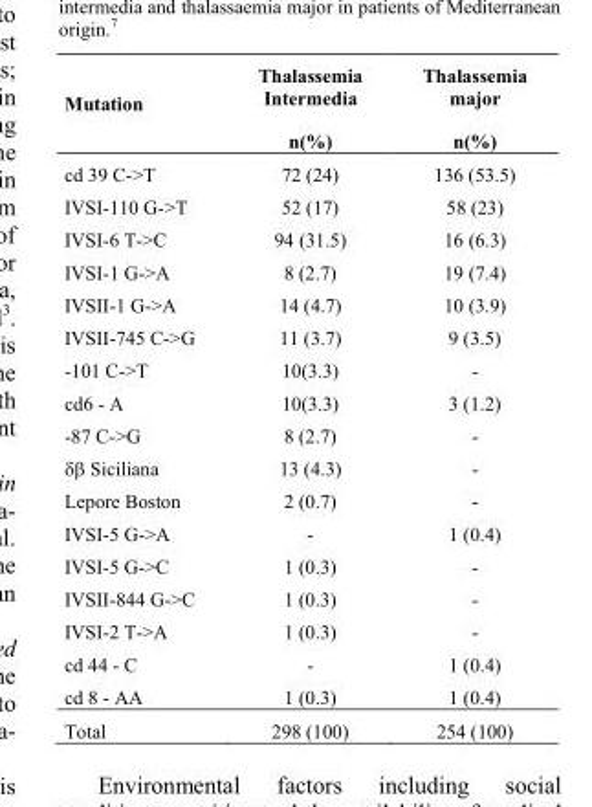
<table><thead><tr><td>Mutation</td><td>Thalassemia Intermedia n(%)</td><td>Thalassemia major n(%)</td></tr></thead><tbody><tr><td>cd 39 C-&gt;T</td><td>72 (24)</td><td>136 (53.5)</td></tr><tr><td>IVSI-110 G-&gt;T</td><td>52 (17)</td><td>58 (23)</td></tr><tr><td>IVSI-6 T-&gt;C</td><td>94 (31.5)</td><td>16 (6.3)</td></tr><tr><td>IVSI-1 G-&gt;A</td><td>8 (2.7)</td><td>19 (7.4)</td></tr><tr><td>IVSII-1 G-&gt;A</td><td>14 (4.7)</td><td>10 (3.9)</td></tr><tr><td>IVSII-745 C-&gt;G</td><td>11 (3.7)</td><td>9 (3.5)</td></tr><tr><td>-101 C-&gt;T</td><td>10(3.3)</td><td>-</td></tr><tr><td>cd6 - A</td><td>10(3.3)</td><td>3 (1.2)</td></tr><tr><td>-87 C-&gt;G</td><td>8 (2.7)</td><td>-</td></tr><tr><td>Siciliana</td><td>13 (4.3)</td><td>-</td></tr><tr><td>Lepore Boston</td><td>2 (0.7)</td><td>-</td></tr><tr><td>IVSI-5 G-&gt;A</td><td>-</td><td>1 (0.4)</td></tr><tr><td>IVSI-5 G-&gt;C</td><td>1 (0.3)</td><td>-</td></tr><tr><td>IVSII-844 G-&gt;C</td><td>1 (0.3)</td><td>-</td></tr><tr><td>IVSI-2 T-&gt;A</td><td>1 (0.3)</td><td>-</td></tr><tr><td>cd 44 - C</td><td>-</td><td>1 (0.4)</td></tr><tr><td>cd 8 - AA</td><td>1 (0.3)</td><td>1 (0.4)</td></tr><tr><td>Total</td><td>298 (100)</td><td>254 (100)</td></tr></tbody></table>